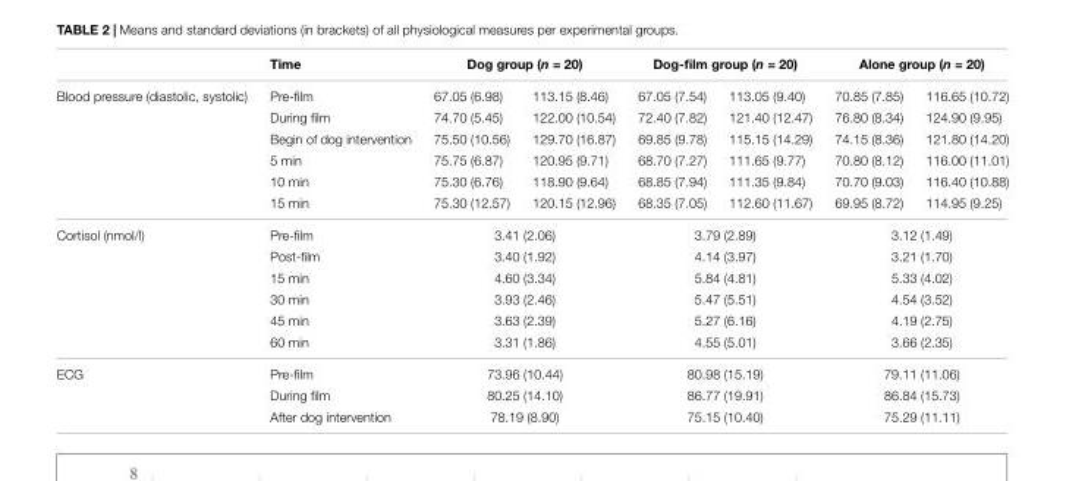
<table><thead><tr><td rowspan="2">Blood pressure (diastolic, systolic)</td><td rowspan="2">Time Pre-film</td><td colspan="2">Dog group (n = 20)</td><td colspan="2">Dog-film group (n = 20)</td><td colspan="2">Alone group (n = 20)</td></tr><tr><td>67.05 (6.98)</td><td>113.15 (8.46)</td><td>67.05 (7.54)</td><td>113.05 (9.40)</td><td>70.85 (7.85)</td><td>116.65 (10.72)</td></tr></thead><tbody><tr><td></td><td>During film</td><td>74.70 (5.45)</td><td>122.00 (10.54)</td><td>72.40 (7.82)</td><td>121.40 (12.47)</td><td>76.80 (8.34)</td><td>124.90 (9.95)</td></tr><tr><td></td><td>Begin of dog intervention</td><td>75.50 (10.56)</td><td>129.70 (16.87)</td><td>69.85 (9.78)</td><td>115.15 (14.29)</td><td>74.15 (8.36)</td><td>121.80 (14.20)</td></tr><tr><td></td><td>5 min</td><td>75.75 (6.87)</td><td>120.95 (9.71)</td><td>68.70 (7.27)</td><td>111.65 (9.77)</td><td>70.80 (8.12)</td><td>116.00 (11.01)</td></tr><tr><td></td><td>10 min</td><td>75.30 (6.76)</td><td>118.90 (9.64)</td><td>68.85 (7.94)</td><td>111.35 (9.84)</td><td>70.70 (9.03)</td><td>116.40 (10.88)</td></tr><tr><td></td><td>15 min</td><td>75.30 (12.57)</td><td>120.15 (12.96)</td><td>68.35 (7.05)</td><td>112.60 (11.67)</td><td>69.95 (8.72)</td><td>114.95 (9.25)</td></tr><tr><td rowspan="6">Cortisol (nmol/l)</td><td>Pre-film</td><td colspan="2">3.41 (2.06)</td><td colspan="2">3.79 (2.89)</td><td colspan="2">3.12 (1.49)</td></tr><tr><td>Post-film</td><td colspan="2">3.40 (1.92)</td><td colspan="2">4.14 (3.97)</td><td colspan="2">3.21 (1.70)</td></tr><tr><td>15 min</td><td colspan="2">4.60 (3.34)</td><td colspan="2">5.84 (4.81)</td><td colspan="2">5.33 (4.02)</td></tr><tr><td>30 min</td><td colspan="2">3.93 (2.46)</td><td colspan="2">5.47 (5.51)</td><td colspan="2">4.54 (3.52)</td></tr><tr><td>45 min</td><td colspan="2">3.63 (2.39)</td><td colspan="2">5.27 (6.16)</td><td colspan="2">4.19 (2.75)</td></tr><tr><td>60 min</td><td colspan="2">3.31 (1.86)</td><td colspan="2">4.55 (5.01)</td><td colspan="2">3.66 (2.35)</td></tr><tr><td rowspan="3">ECG</td><td>Pre-film</td><td colspan="2">73.96 (10.44)</td><td colspan="2">80.98 (15.19)</td><td colspan="2">79.11 (11.06)</td></tr><tr><td>During film</td><td colspan="2">80.25 (14.10)</td><td colspan="2">86.77 (19.91)</td><td colspan="2">86.84 (15.73)</td></tr><tr><td>After dog intervention</td><td colspan="2">78.19 (8.90)</td><td colspan="2">75.15 (10.40)</td><td colspan="2">75.29 (11.11)</td></tr></tbody></table>